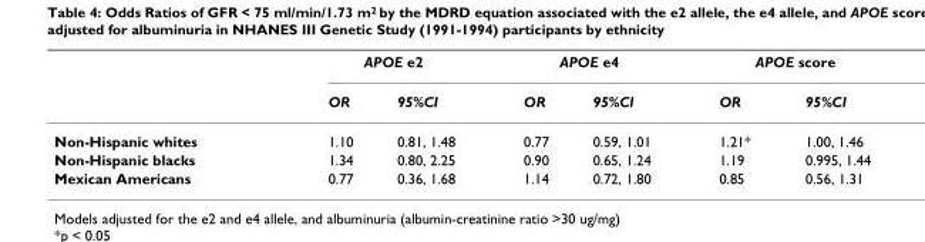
<table><thead><tr><td rowspan="2"></td><td colspan="2">APOE e2</td><td colspan="2">APOE e4</td><td colspan="2">APOE score</td></tr><tr><td>OR</td><td>95%CI</td><td>OR</td><td>95%CI</td><td>OR</td><td>95%CI</td></tr></thead><tbody><tr><td>Non-Hispanic whites</td><td>1.10</td><td>0.81, 1.48</td><td>0.77</td><td>0.59, 1.01</td><td>1.21*</td><td>1.00, 1.46</td></tr><tr><td>Non-Hispanic blacks</td><td>1.34</td><td>0.80, 2.25</td><td>0.90</td><td>0.65, 1.24</td><td>1.19</td><td>0.995, 1.44</td></tr><tr><td>Mexican Americans</td><td>0.77</td><td>0.36, 1.68</td><td>1.14</td><td>0.72, 1.80</td><td>0.85</td><td>0.56, 1.31</td></tr></tbody></table>